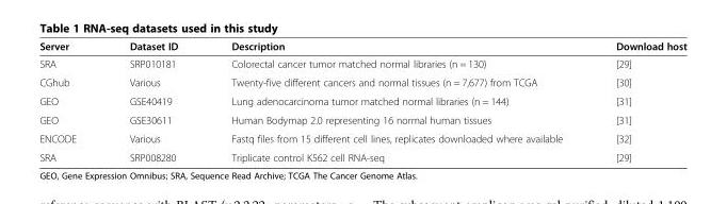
<table><thead><tr><td>Server</td><td>Dataset ID</td><td>Description</td><td>Download host</td></tr></thead><tbody><tr><td>SRA</td><td>SRP010181</td><td>Colorectal cancer tumor matched normal libraries (n = 130)</td><td>[29]</td></tr><tr><td>CGhub</td><td>Various</td><td>Twenty-five different cancers and normal tissues (n = 7,677) from TCGA</td><td>[30]</td></tr><tr><td>GEO</td><td>GSE40419</td><td>Lung adenocarcinoma tumor matched normal libraries (n = 144)</td><td>[31]</td></tr><tr><td>GEO</td><td>GSE30611</td><td>Human Bodymap 2.0 representing 16 normal human tissues</td><td>[31]</td></tr><tr><td>ENCODE</td><td>Various</td><td>Fastq files from 15 different cell lines, replicates downloaded where available</td><td>[32]</td></tr><tr><td>SRA</td><td>SRP008280</td><td>Triplicate control K562 cell RNA-seq</td><td>[29]</td></tr></tbody></table>